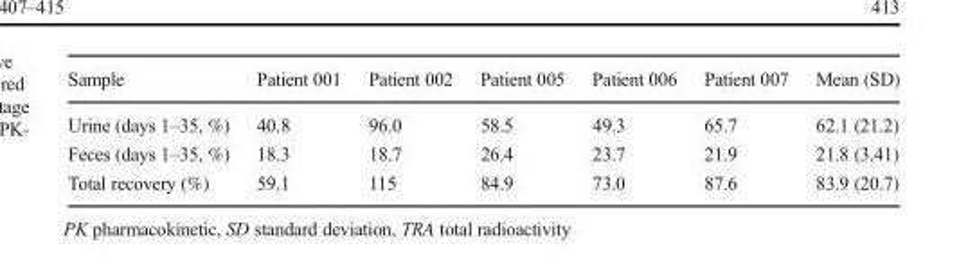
<table><thead><tr><td>Sample</td><td>Patient 001</td><td>Patient 002</td><td>Patient 005</td><td>Patient 006</td><td>Patient 007</td><td>Mean (SD)</td></tr></thead><tbody><tr><td>Urine (days 1–35, %)</td><td>40.8</td><td>96.0</td><td>58.5</td><td>49.3</td><td>65.7</td><td>62.1 (21.2)</td></tr><tr><td>Feces (days 1–35, %)</td><td>18.3</td><td>18.7</td><td>26.4</td><td>23.7</td><td>21.9</td><td>21.8 (3.41)</td></tr><tr><td>Total recovery (%)</td><td>59.1</td><td>115</td><td>84.9</td><td>73.0</td><td>87.6</td><td>83.9 (20.7)</td></tr></tbody></table>